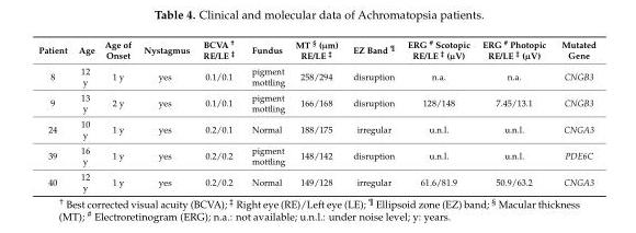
<table><thead><tr><td>Patient</td><td>Age</td><td>Age of Onset</td><td>Nystagmus</td><td>BCVA <sup>†</sup> RE/LE <sup>‡</sup></td><td>Fundus</td><td>MT <sup>§</sup> (µm) RE/LE <sup>‡</sup></td><td>EZ Band <sup>¶</sup></td><td>ERG <sup>#</sup> Scotopic RE/LE <sup>‡</sup> (µV)</td><td>ERG <sup>#</sup> Photopic RE/LE <sup>‡</sup> (µV)</td><td>Mutated Gene</td></tr></thead><tbody><tr><td>8</td><td>12 y</td><td>1 y</td><td>yes</td><td>0.1/0.1</td><td>pigment mottling</td><td>258/294</td><td>disruption</td><td>n.a.</td><td>n.a.</td><td>CNGB3</td></tr><tr><td>9</td><td>13 y</td><td>2 y</td><td>yes</td><td>0.1/0.1</td><td>pigment mottling</td><td>166/168</td><td>disruption</td><td>128/148</td><td>7.45/13.1</td><td>CNGB3</td></tr><tr><td>24</td><td>10 y</td><td>1 y</td><td>yes</td><td>0.2/0.1</td><td>Normal</td><td>188/175</td><td>irregular</td><td>u.n.l.</td><td>u.n.l.</td><td>CNGA3</td></tr><tr><td>39</td><td>16 y</td><td>1 y</td><td>yes</td><td>0.2/0.2</td><td>pigment mottling</td><td>148/142</td><td>disruption</td><td>u.n.l.</td><td>u.n.l.</td><td>PDE6C</td></tr><tr><td>40</td><td>12 y</td><td>1 y</td><td>yes</td><td>0.2/0.2</td><td>Normal</td><td>149/128</td><td>irregular</td><td>61.6/81.9</td><td>50.9/63.2</td><td>CNGA3</td></tr></tbody></table>